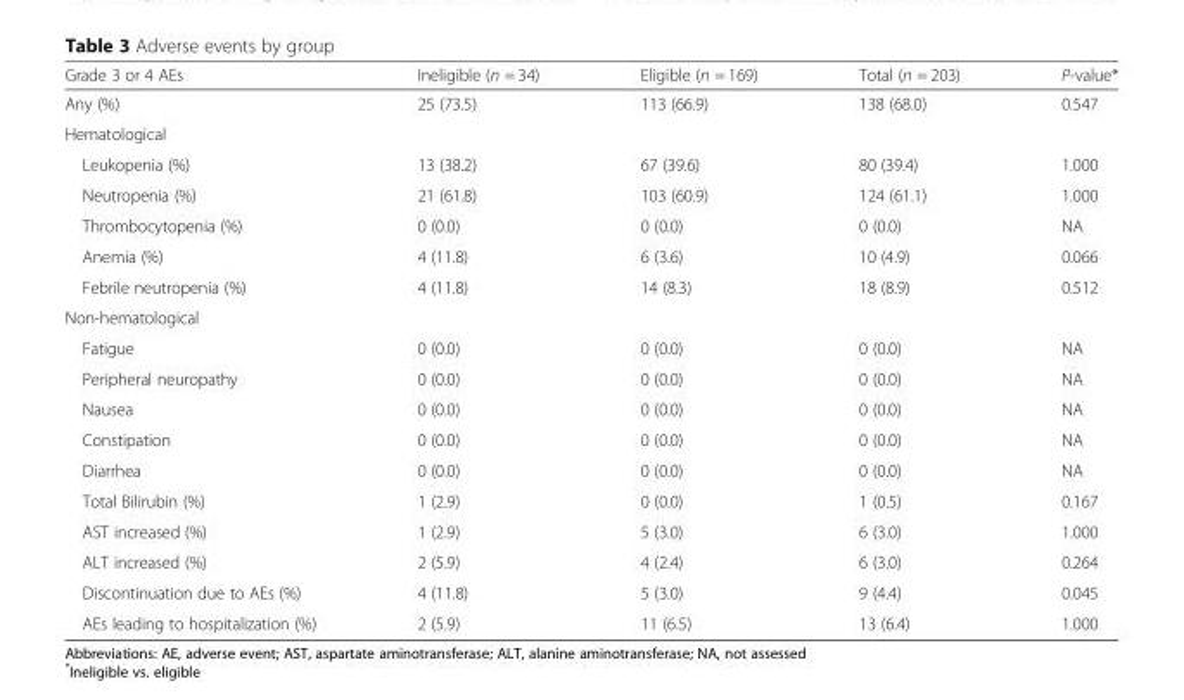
<table><thead><tr><td>Grade 3 or 4 AEs</td><td>Ineligible (n = 34)</td><td>Eligible (n = 169)</td><td>Total (n = 203)</td><td>P-value*</td></tr></thead><tbody><tr><td>Any (%)</td><td>25 (73.5)</td><td>113 (66.9)</td><td>138 (68.0)</td><td>0.547</td></tr><tr><td colspan="5">Hematological</td></tr><tr><td>Leukopenia (%)</td><td>13 (38.2)</td><td>67 (39.6)</td><td>80 (39.4)</td><td>1.000</td></tr><tr><td>Neutropenia (%)</td><td>21 (61.8)</td><td>103 (60.9)</td><td>124 (61.1)</td><td>1.000</td></tr><tr><td>Thrombocytopenia (%)</td><td>0 (0.0)</td><td>0 (0.0)</td><td>0 (0.0)</td><td>NA</td></tr><tr><td>Anemia (%)</td><td>4 (11.8)</td><td>6 (3.6)</td><td>10 (4.9)</td><td>0.066</td></tr><tr><td>Febrile neutropenia (%)</td><td>4 (11.8)</td><td>14 (8.3)</td><td>18 (8.9)</td><td>0.512</td></tr><tr><td colspan="5">Non-hematological</td></tr><tr><td>Fatigue</td><td>0 (0.0)</td><td>0 (0.0)</td><td>0 (0.0)</td><td>NA</td></tr><tr><td>Peripheral neuropathy</td><td>0 (0.0)</td><td>0 (0.0)</td><td>0 (0.0)</td><td>NA</td></tr><tr><td>Nausea</td><td>0 (0.0)</td><td>0 (0.0)</td><td>0 (0.0)</td><td>NA</td></tr><tr><td>Constipation</td><td>0 (0.0)</td><td>0 (0.0)</td><td>0 (0.0)</td><td>NA</td></tr><tr><td>Diarrhea</td><td>0 (0.0)</td><td>0 (0.0)</td><td>0 (0.0)</td><td>NA</td></tr><tr><td>Total Bilirubin (%)</td><td>1 (2.9)</td><td>0 (0.0)</td><td>1 (0.5)</td><td>0.167</td></tr><tr><td>AST increased (%)</td><td>1 (2.9)</td><td>5 (3.0)</td><td>6 (3.0)</td><td>1.000</td></tr><tr><td>ALT increased (%)</td><td>2 (5.9)</td><td>4 (2.4)</td><td>6 (3.0)</td><td>0.264</td></tr><tr><td>Discontinuation due to AEs (%)</td><td>4 (11.8)</td><td>5 (3.0)</td><td>9 (4.4)</td><td>0.045</td></tr><tr><td>AEs leading to hospitalization (%)</td><td>2 (5.9)</td><td>11 (6.5)</td><td>13 (6.4)</td><td>1.000</td></tr></tbody></table>